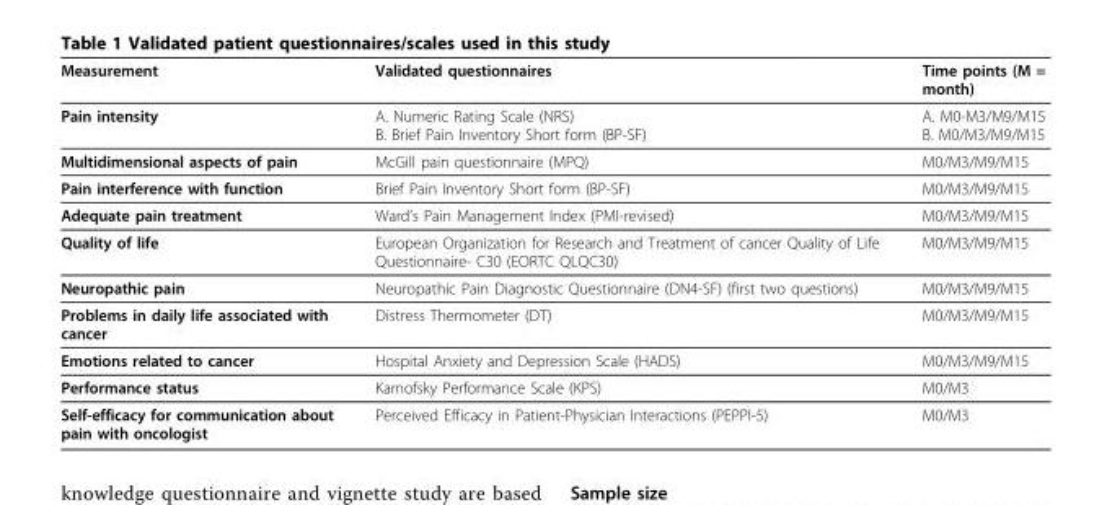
<table><thead><tr><td>Measurement</td><td>Validated questionnaires</td><td>Time points (M = month)</td></tr></thead><tbody><tr><td>Pain intensity</td><td>A. Numeric Rating Scale (NRS) B. Brief Pain Inventory Short form (BP-SF)</td><td>A. M0-M3/M9/M15 B. M0/M3/M9/M15</td></tr><tr><td>Multidimensional aspects of pain</td><td>McGill pain questionnaire (MPQ)</td><td>M0/M3/M9/M15</td></tr><tr><td>Pain interference with function</td><td>Brief Pain Inventory Short form (BP-SF)</td><td>M0/M3/M9/M15</td></tr><tr><td>Adequate pain treatment</td><td>Ward’s Pain Management Index (PMI-revised)</td><td>M0/M3/M9/M15</td></tr><tr><td>Quality of life</td><td>European Organization for Research and Treatment of cancer Quality of Life Questionnaire- C30 (EORTC QLQC30)</td><td>M0/M3/M9/M15</td></tr><tr><td>Neuropathic pain</td><td>Neuropathic Pain Diagnostic Questionnaire (DN4-SF) (first two questions)</td><td>M0/M3/M9/M15</td></tr><tr><td>Problems in daily life associated with cancer</td><td>Distress Thermometer (DT)</td><td>M0/M3/M9/M15</td></tr><tr><td>Emotions related to cancer</td><td>Hospital Anxiety and Depression Scale (HADS)</td><td>M0/M3/M9/M15</td></tr><tr><td>Performance status</td><td>Karnofsky Performance Scale (KPS)</td><td>M0/M3</td></tr><tr><td>Self-efficacy for communication about pain with oncologist</td><td>Perceived Efficacy in Patient-Physician Interactions (PEPPI-5)</td><td>M0/M3</td></tr></tbody></table>